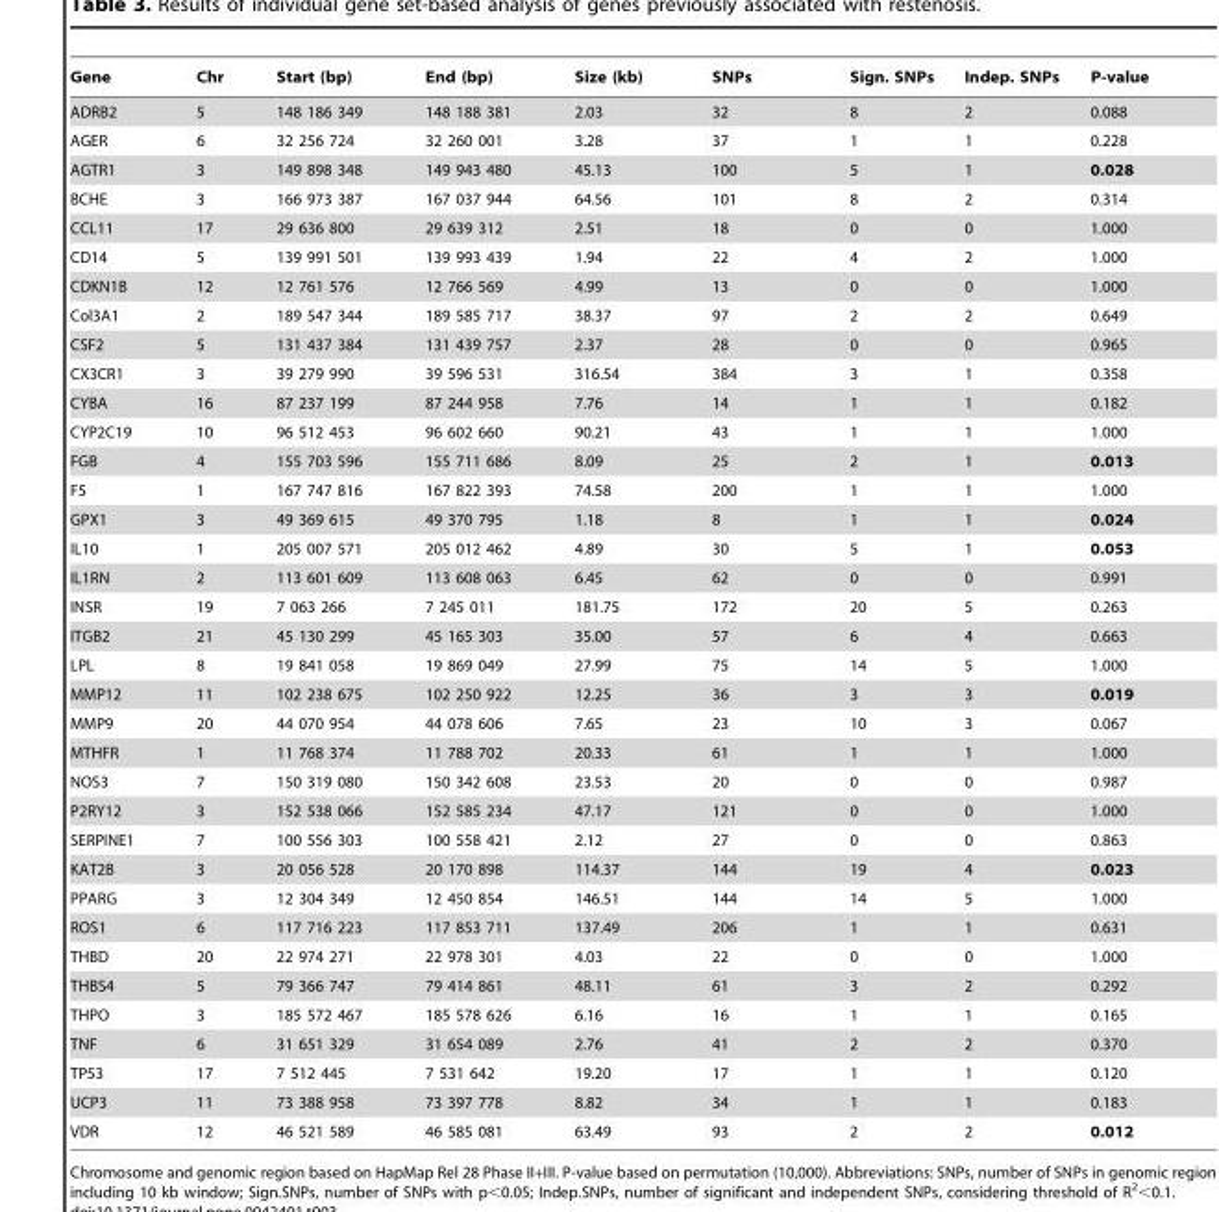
<table><thead><tr><td>Gene</td><td>Chr</td><td>Start (bp)</td><td>End (bp)</td><td>Size (kb)</td><td>SNPs</td><td>Sign. SNPs</td><td>Indep. SNPs</td><td>P-value</td></tr></thead><tbody><tr><td>ADRB2</td><td>5</td><td>148 186 349</td><td>148 188 381</td><td>2.03</td><td>32</td><td>8</td><td>2</td><td>0.088</td></tr><tr><td>AGER</td><td>6</td><td>32 256 724</td><td>32 260 001</td><td>3.28</td><td>37</td><td>1</td><td>1</td><td>0.228</td></tr><tr><td>AGTR1</td><td>3</td><td>149 898 348</td><td>149 943 480</td><td>45.13</td><td>100</td><td>5</td><td>1</td><td>0.028</td></tr><tr><td>BCHE</td><td>3</td><td>166 973 387</td><td>167 037 944</td><td>64.56</td><td>101</td><td>8</td><td>2</td><td>0.314</td></tr><tr><td>CCL11</td><td>17</td><td>29 636 800</td><td>29 639 312</td><td>2.51</td><td>18</td><td>0</td><td>0</td><td>1.000</td></tr><tr><td>CD14</td><td>5</td><td>139 991 501</td><td>139 993 439</td><td>1.94</td><td>22</td><td>4</td><td>2</td><td>1.000</td></tr><tr><td>CDKN1B</td><td>12</td><td>12 761 576</td><td>12 766 569</td><td>4.99</td><td>13</td><td>0</td><td>0</td><td>1.000</td></tr><tr><td>Col3A1</td><td>2</td><td>189 547 344</td><td>189 585 717</td><td>38.37</td><td>97</td><td>2</td><td>2</td><td>0.649</td></tr><tr><td>CSF2</td><td>5</td><td>131 437 384</td><td>131 439 757</td><td>2.37</td><td>28</td><td>0</td><td>0</td><td>0.965</td></tr><tr><td>CX3CR1</td><td>3</td><td>39 279 990</td><td>39 596 531</td><td>316.54</td><td>384</td><td>3</td><td>1</td><td>0.358</td></tr><tr><td>CYBA</td><td>16</td><td>87 237 199</td><td>87 244 958</td><td>7.76</td><td>14</td><td>1</td><td>1</td><td>0.182</td></tr><tr><td>CYP2C19</td><td>10</td><td>96 512 453</td><td>96 602 660</td><td>90.21</td><td>43</td><td>1</td><td>1</td><td>1.000</td></tr><tr><td>FGB</td><td>4</td><td>155 703 596</td><td>155 711 686</td><td>8.09</td><td>25</td><td>2</td><td>1</td><td>0.013</td></tr><tr><td>F5</td><td>1</td><td>167 747 816</td><td>167 822 393</td><td>74.58</td><td>200</td><td>1</td><td>1</td><td>1.000</td></tr><tr><td>GPX1</td><td>3</td><td>49 369 615</td><td>49 370 795</td><td>1.18</td><td>8</td><td>1</td><td>1</td><td>0.024</td></tr><tr><td>IL10</td><td>1</td><td>205 007 571</td><td>205 012 462</td><td>4.89</td><td>30</td><td>5</td><td>1</td><td>0.053</td></tr><tr><td>IL1RN</td><td>2</td><td>113 601 609</td><td>113 608 063</td><td>6.45</td><td>62</td><td>0</td><td>0</td><td>0.991</td></tr><tr><td>INSR</td><td>19</td><td>7 063 266</td><td>7 245 011</td><td>181.75</td><td>172</td><td>20</td><td>5</td><td>0.263</td></tr><tr><td>ITGB2</td><td>21</td><td>45 130 299</td><td>45 165 303</td><td>35.00</td><td>57</td><td>6</td><td>4</td><td>0.663</td></tr><tr><td>LPL</td><td>8</td><td>19 841 058</td><td>19 869 049</td><td>27.99</td><td>75</td><td>14</td><td>5</td><td>1.000</td></tr><tr><td>MMP12</td><td>11</td><td>102 238 675</td><td>102 250 922</td><td>12.25</td><td>36</td><td>3</td><td>3</td><td>0.019</td></tr><tr><td>MMP9</td><td>20</td><td>44 070 954</td><td>44 078 606</td><td>7.65</td><td>23</td><td>10</td><td>3</td><td>0.067</td></tr><tr><td>MTHFR</td><td>1</td><td>11 768 374</td><td>11 788 702</td><td>20.33</td><td>61</td><td>1</td><td>1</td><td>1.000</td></tr><tr><td>NOS3</td><td>7</td><td>150 319 080</td><td>150 342 608</td><td>23.53</td><td>20</td><td>0</td><td>0</td><td>0.987</td></tr><tr><td>P2RY12</td><td>3</td><td>152 538 066</td><td>152 585 234</td><td>47.17</td><td>121</td><td>0</td><td>0</td><td>1.000</td></tr><tr><td>SERPINE1</td><td>7</td><td>100 556 303</td><td>100 558 421</td><td>2.12</td><td>27</td><td>0</td><td>0</td><td>0.863</td></tr><tr><td>KAT2B</td><td>3</td><td>20 056 528</td><td>20 170 898</td><td>114.37</td><td>144</td><td>19</td><td>4</td><td>0.023</td></tr><tr><td>PPARG</td><td>3</td><td>12 304 349</td><td>12 450 854</td><td>146.51</td><td>144</td><td>14</td><td>5</td><td>1.000</td></tr><tr><td>ROS1</td><td>6</td><td>117 716 223</td><td>117 853 711</td><td>137.49</td><td>206</td><td>1</td><td>1</td><td>0.631</td></tr><tr><td>THBD</td><td>20</td><td>22 974 271</td><td>22 978 301</td><td>4.03</td><td>22</td><td>0</td><td>0</td><td>1.000</td></tr><tr><td>THBS4</td><td>5</td><td>79 366 747</td><td>79 414 861</td><td>48.11</td><td>61</td><td>3</td><td>2</td><td>0.292</td></tr><tr><td>THPO</td><td>3</td><td>185 572 467</td><td>185 578 626</td><td>6.16</td><td>16</td><td>1</td><td>1</td><td>0.165</td></tr><tr><td>TNF</td><td>6</td><td>31 651 329</td><td>31 654 089</td><td>2.76</td><td>41</td><td>2</td><td>2</td><td>0.370</td></tr><tr><td>TP53</td><td>17</td><td>7 512 445</td><td>7 531 642</td><td>19.20</td><td>17</td><td>1</td><td>1</td><td>0.120</td></tr><tr><td>UCP3</td><td>11</td><td>73 388 958</td><td>73 397 778</td><td>8.82</td><td>34</td><td>1</td><td>1</td><td>0.183</td></tr><tr><td>VDR</td><td>12</td><td>46 521 589</td><td>46 585 081</td><td>63.49</td><td>93</td><td>2</td><td>2</td><td>0.012</td></tr></tbody></table>